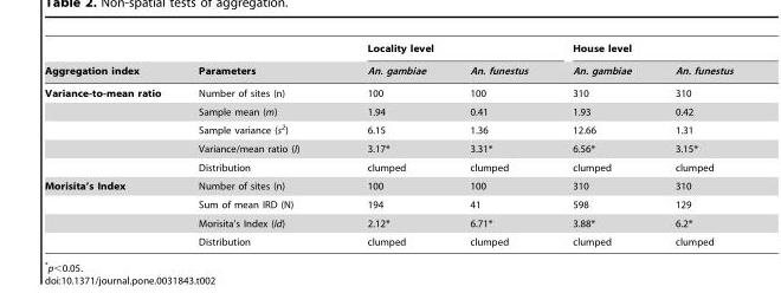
<table><thead><tr><td rowspan="2">Aggregation index</td><td rowspan="2">Parameters</td><td colspan="2">Locality level</td><td colspan="2">House level</td></tr><tr><td>An. gambiae</td><td>An. funestus</td><td>An. gambiae</td><td>An. funestus</td></tr></thead><tbody><tr><td rowspan="5">Variance-to-mean ratio</td><td>Number of sites (n)</td><td>100</td><td>100</td><td>310</td><td>310</td></tr><tr><td>Sample mean (m)</td><td>1.94</td><td>0.41</td><td>1.93</td><td>0.42</td></tr><tr><td>Sample variance (s<sup>2</sup>)</td><td>6.15</td><td>1.36</td><td>12.66</td><td>1.31</td></tr><tr><td>Variance/mean ratio (I)</td><td>3.17*</td><td>3.31*</td><td>6.56*</td><td>3.15*</td></tr><tr><td>Distribution</td><td>clumped</td><td>clumped</td><td>clumped</td><td>clumped</td></tr><tr><td rowspan="4">Morisita’s Index</td><td>Number of sites (n)</td><td>100</td><td>100</td><td>310</td><td>310</td></tr><tr><td>Sum of mean IRD (N)</td><td>194</td><td>41</td><td>598</td><td>129</td></tr><tr><td>Morisita’s Index (Id)</td><td>2.12*</td><td>6.71*</td><td>3.88*</td><td>6.2*</td></tr><tr><td>Distribution</td><td>clumped</td><td>clumped</td><td>clumped</td><td>clumped</td></tr></tbody></table>